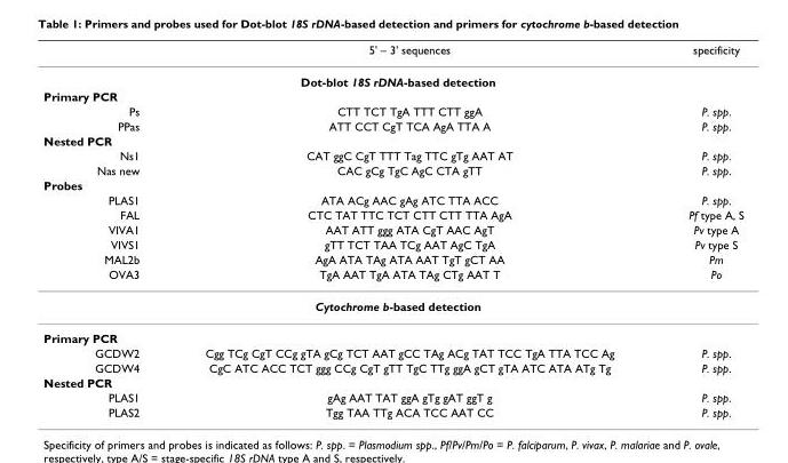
<table><thead><tr><td></td><td>5&#x27; – 3&#x27; sequences</td><td>specificity</td></tr></thead><tbody><tr><td colspan="3">Dot-blot 18S rDNA-based detection</td></tr><tr><td colspan="3">Primary PCR</td></tr><tr><td>Ps</td><td>CTT TCT TgA TTT CTT ggA</td><td>P. spp.</td></tr><tr><td>PPas</td><td>ATT CCT CgT TCA AgA TTA A</td><td>P. spp.</td></tr><tr><td colspan="3">Nested PCR</td></tr><tr><td>Ns1</td><td>CAT ggC CgT TTT Tag TTC gTg AAT AT</td><td>P. spp.</td></tr><tr><td>Nas new</td><td>CAC gCg TgC AgC CTA gTT</td><td>P. spp.</td></tr><tr><td colspan="3">Probes</td></tr><tr><td>PLAS1</td><td>ATA ACg AAC gAg ATC TTA ACC</td><td>P. spp.</td></tr><tr><td>FAL</td><td>CTC TAT TTC TCT CTT CTT TTA AgA</td><td>Pf type A, S</td></tr><tr><td>VIVA1</td><td>AAT ATT ggg ATA CgT AAC AgT</td><td>Pv type A</td></tr><tr><td>VIVS1</td><td>gTT TCT TAA TCg AAT AgC TgA</td><td>Pv type S</td></tr><tr><td>MAL2b</td><td>AgA ATA TAg ATA AAT TgT gCT AA</td><td>Pm</td></tr><tr><td>OVA3</td><td>TgA AAT TgA ATA TAg CTg AAT T</td><td>Po</td></tr><tr><td colspan="3">Cytochrome b-based detection</td></tr><tr><td colspan="3">Primary PCR</td></tr><tr><td>GCDW2</td><td>Cgg TCg CgT CCg gTA gCg TCT AAT gCC TAg ACg TAT TCC TgA TTA TCC Ag</td><td>P. spp.</td></tr><tr><td>GCDW4</td><td>CgC ATC ACC TCT ggg CCg CgT gTT TgC TTg ggA gCT gTA ATC ATA ATg Tg</td><td>P. spp.</td></tr><tr><td colspan="3">Nested PCR</td></tr><tr><td>PLAS1</td><td>gAg AAT TAT ggA gTg gAT ggT g</td><td>P. spp.</td></tr><tr><td>PLAS2</td><td>Tgg TAA TTg ACA TCC AAT CC</td><td>P. spp.</td></tr></tbody></table>